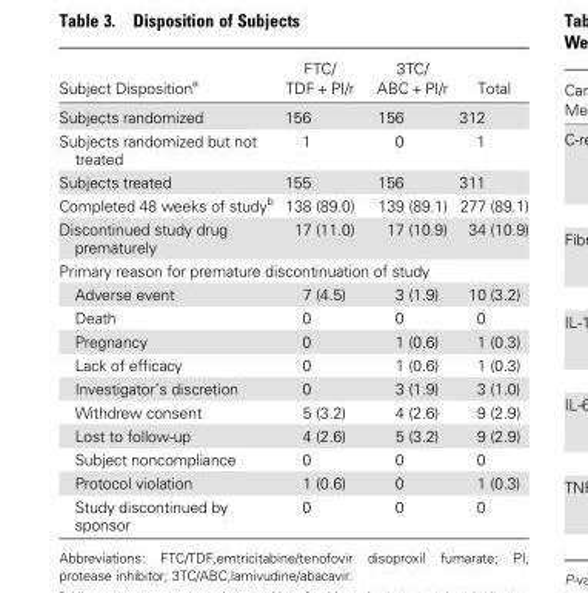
<table><thead><tr><td>Subject Disposition<sup>a</sup></td><td>FTC/ TDF + PI/r</td><td>3TC/ ABC + PI/r</td><td>Total</td></tr></thead><tbody><tr><td>Subjects randomized</td><td>156</td><td>156</td><td>312</td></tr><tr><td>Subjects randomized but not treated</td><td>1</td><td>0</td><td>1</td></tr><tr><td>Subjects treated</td><td>155</td><td>156</td><td>311</td></tr><tr><td>Completed 48 weeks of study<sup>b</sup></td><td>138 (89.0)</td><td>139 (89.1)</td><td>277 (89.1)</td></tr><tr><td>Discontinued study drug prematurely</td><td>17 (11.0)</td><td>17 (10.9)</td><td>34 (10.9)</td></tr><tr><td colspan="4">Primary reason for premature discontinuation of study</td></tr><tr><td>Adverse event</td><td>7 (4.5)</td><td>3 (1.9)</td><td>10 (3.2)</td></tr><tr><td>Death</td><td>0</td><td>0</td><td>0</td></tr><tr><td>Pregnancy</td><td>0</td><td>1 (0.6)</td><td>1 (0.3)</td></tr><tr><td>Lack of efficacy</td><td>0</td><td>1 (0.6)</td><td>1 (0.3)</td></tr><tr><td>Investigator’s discretion</td><td>0</td><td>3 (1.9)</td><td>3 (1.0)</td></tr><tr><td>Withdrew consent</td><td>5 (3.2)</td><td>4 (2.6)</td><td>9 (2.9)</td></tr><tr><td>Lost to follow-up</td><td>4 (2.6)</td><td>5 (3.2)</td><td>9 (2.9)</td></tr><tr><td>Subject noncompliance</td><td>0</td><td>0</td><td>0</td></tr><tr><td>Protocol violation</td><td>1 (0.6)</td><td>0</td><td>1 (0.3)</td></tr><tr><td>Study discontinued by sponsor</td><td>0</td><td>0</td><td>0</td></tr></tbody></table>